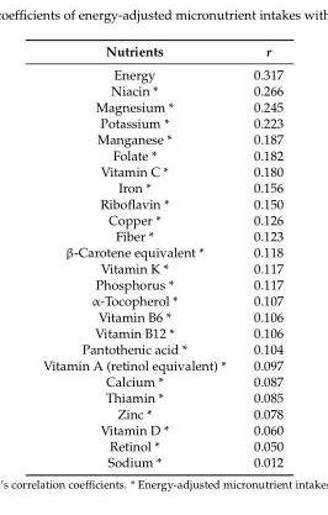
<table><thead><tr><td>Nutrients</td><td>r</td></tr></thead><tbody><tr><td>Energy</td><td>0.317</td></tr><tr><td>Niacin *</td><td>0.266</td></tr><tr><td>Magnesium *</td><td>0.245</td></tr><tr><td>Potassium *</td><td>0.223</td></tr><tr><td>Manganese *</td><td>0.187</td></tr><tr><td>Folate *</td><td>0.182</td></tr><tr><td>Vitamin C *</td><td>0.180</td></tr><tr><td>Iron *</td><td>0.156</td></tr><tr><td>Riboflavin *</td><td>0.150</td></tr><tr><td>Copper *</td><td>0.126</td></tr><tr><td>Fiber *</td><td>0.123</td></tr><tr><td>β-Carotene equivalent *</td><td>0.118</td></tr><tr><td>Vitamin K *</td><td>0.117</td></tr><tr><td>Phosphorus *</td><td>0.117</td></tr><tr><td>α-Tocopherol *</td><td>0.107</td></tr><tr><td>Vitamin B6 *</td><td>0.106</td></tr><tr><td>Vitamin B12 *</td><td>0.106</td></tr><tr><td>Pantothenic acid *</td><td>0.104</td></tr><tr><td>Vitamin A (retinol equivalent) *</td><td>0.097</td></tr><tr><td>Calcium *</td><td>0.087</td></tr><tr><td>Thiamin *</td><td>0.085</td></tr><tr><td>Zinc *</td><td>0.078</td></tr><tr><td>Vitamin D *</td><td>0.060</td></tr><tr><td>Retinol *</td><td>0.050</td></tr><tr><td>Sodium *</td><td>0.012</td></tr></tbody></table>